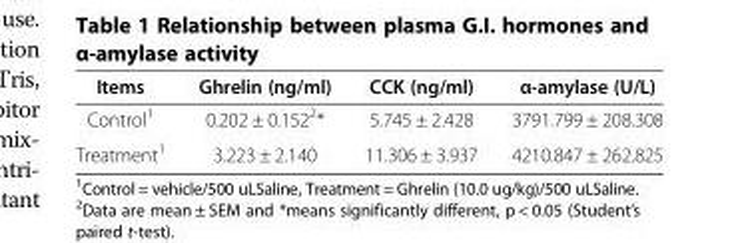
<table><thead><tr><td>Items</td><td>Ghrelin (ng/ml)</td><td>CCK (ng/ml)</td><td>α-amylase (U/L)</td></tr></thead><tbody><tr><td>Control<sup>1</sup></td><td>0.202 ± 0.152<sup>2</sup>*</td><td>5.745 ± 2.428</td><td>3791.799 ± 208.308</td></tr><tr><td>Treatment<sup>1</sup></td><td>3.223 ± 2.140</td><td>11.306 ± 3.937</td><td>4210.847 ± 262.825</td></tr></tbody></table>